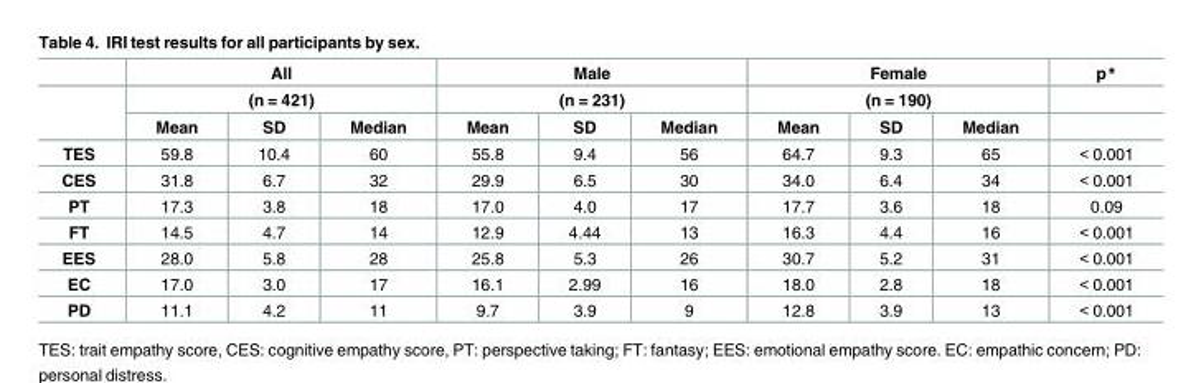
<table><thead><tr><td rowspan="3"></td><td rowspan="2" colspan="3">All (n = 421)</td><td rowspan="2" colspan="3">Male (n = 231)</td><td rowspan="2" colspan="3">Female (n = 190)</td><td rowspan="3">p*</td></tr><tr></tr><tr><td>Mean</td><td>SD</td><td>Median</td><td>Mean</td><td>SD</td><td>Median</td><td>Mean</td><td>SD</td><td>Median</td></tr></thead><tbody><tr><td>TES</td><td>59.8</td><td>10.4</td><td>60</td><td>55.8</td><td>9.4</td><td>56</td><td>64.7</td><td>9.3</td><td>65</td><td>&lt; 0.001</td></tr><tr><td>CES</td><td>31.8</td><td>6.7</td><td>32</td><td>29.9</td><td>6.5</td><td>30</td><td>34.0</td><td>6.4</td><td>34</td><td>&lt; 0.001</td></tr><tr><td>PT</td><td>17.3</td><td>3.8</td><td>18</td><td>17.0</td><td>4.0</td><td>17</td><td>17.7</td><td>3.6</td><td>18</td><td>0.09</td></tr><tr><td>FT</td><td>14.5</td><td>4.7</td><td>14</td><td>12.9</td><td>4.44</td><td>13</td><td>16.3</td><td>4.4</td><td>16</td><td>&lt; 0.001</td></tr><tr><td>EES</td><td>28.0</td><td>5.8</td><td>28</td><td>25.8</td><td>5.3</td><td>26</td><td>30.7</td><td>5.2</td><td>31</td><td>&lt; 0.001</td></tr><tr><td>EC</td><td>17.0</td><td>3.0</td><td>17</td><td>16.1</td><td>2.99</td><td>16</td><td>18.0</td><td>2.8</td><td>18</td><td>&lt; 0.001</td></tr><tr><td>PD</td><td>11.1</td><td>4.2</td><td>11</td><td>9.7</td><td>3.9</td><td>9</td><td>12.8</td><td>3.9</td><td>13</td><td>&lt; 0.001</td></tr></tbody></table>